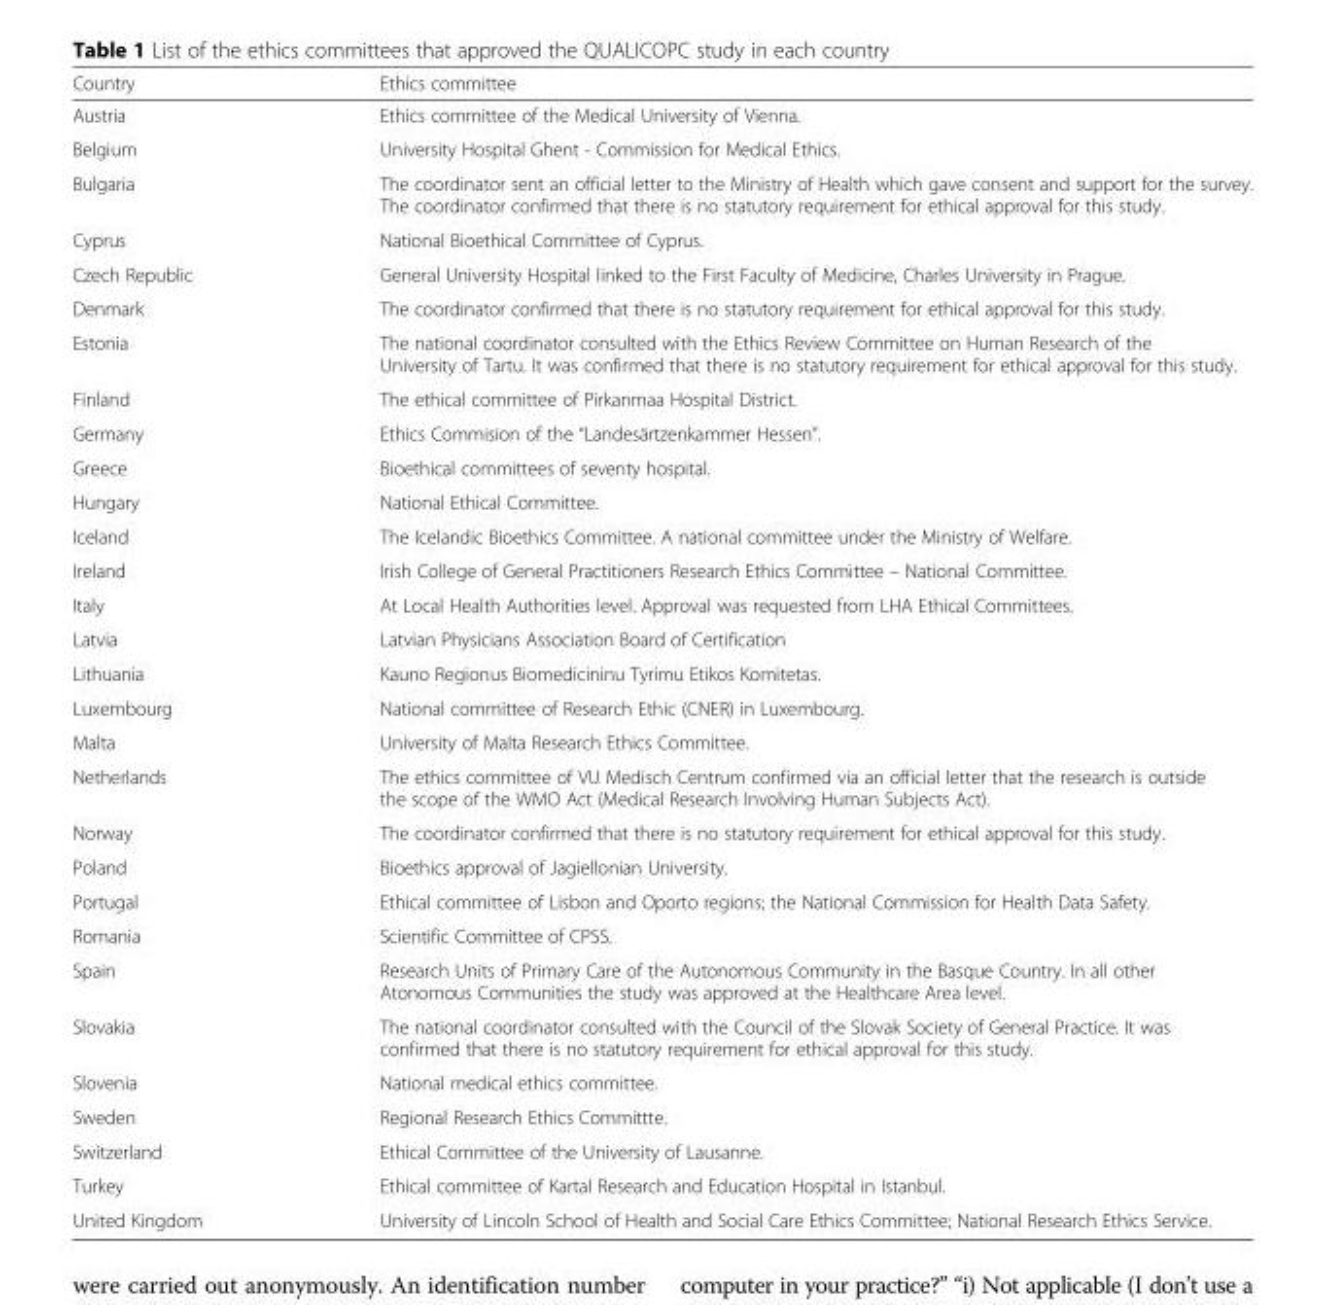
<table><thead><tr><td>Country</td><td>Ethics committee</td></tr></thead><tbody><tr><td>Austria</td><td>Ethics committee of the Medical University of Vienna.</td></tr><tr><td>Belgium</td><td>University Hospital Ghent - Commission for Medical Ethics.</td></tr><tr><td>Bulgaria</td><td>The coordinator sent an official letter to the Ministry of Health which gave consent and support for the survey. The coordinator confirmed that there is no statutory requirement for ethical approval for this study.</td></tr><tr><td>Cyprus</td><td>National Bioethical Committee of Cyprus.</td></tr><tr><td>Czech Republic</td><td>General University Hospital linked to the First Faculty of Medicine, Charles University in Prague.</td></tr><tr><td>Denmark</td><td>The coordinator confirmed that there is no statutory requirement for ethical approval for this study.</td></tr><tr><td>Estonia</td><td>The national coordinator consulted with the Ethics Review Committee on Human Research of the University of Tartu. It was confirmed that there is no statutory requirement for ethical approval for this study.</td></tr><tr><td>Finland</td><td>The ethical committee of Pirkanmaa Hospital District.</td></tr><tr><td>Germany</td><td>Ethics Commision of the “Landesärtzenkammer Hessen”.</td></tr><tr><td>Greece</td><td>Bioethical committees of seventy hospital.</td></tr><tr><td>Hungary</td><td>National Ethical Committee.</td></tr><tr><td>Iceland</td><td>The Icelandic Bioethics Committee. A national committee under the Ministry of Welfare.</td></tr><tr><td>Ireland</td><td>Irish College of General Practitioners Research Ethics Committee – National Committee.</td></tr><tr><td>Italy</td><td>At Local Health Authorities level. Approval was requested from LHA Ethical Committees.</td></tr><tr><td>Latvia</td><td>Latvian Physicians Association Board of Certification</td></tr><tr><td>Lithuania</td><td>Kauno Regionus Biomedicininu Tyrimu Etikos Komitetas.</td></tr><tr><td>Luxembourg</td><td>National committee of Research Ethic (CNER) in Luxembourg.</td></tr><tr><td>Malta</td><td>University of Malta Research Ethics Committee.</td></tr><tr><td>Netherlands</td><td>The ethics committee of VU Medisch Centrum confirmed via an official letter that the research is outside the scope of the WMO Act (Medical Research Involving Human Subjects Act).</td></tr><tr><td>Norway</td><td>The coordinator confirmed that there is no statutory requirement for ethical approval for this study.</td></tr><tr><td>Poland</td><td>Bioethics approval of Jagiellonian University.</td></tr><tr><td>Portugal</td><td>Ethical committee of Lisbon and Oporto regions; the National Commission for Health Data Safety.</td></tr><tr><td>Romania</td><td>Scientific Committee of CPSS.</td></tr><tr><td>Spain</td><td>Research Units of Primary Care of the Autonomous Community in the Basque Country. In all other Atonomous Communities the study was approved at the Healthcare Area level.</td></tr><tr><td>Slovakia</td><td>The national coordinator consulted with the Council of the Slovak Society of General Practice. It was confirmed that there is no statutory requirement for ethical approval for this study.</td></tr><tr><td>Slovenia</td><td>National medical ethics committee.</td></tr><tr><td>Sweden</td><td>Regional Research Ethics Committte.</td></tr><tr><td>Switzerland</td><td>Ethical Committee of the University of Lausanne.</td></tr><tr><td>Turkey</td><td>Ethical committee of Kartal Research and Education Hospital in Istanbul.</td></tr><tr><td>United Kingdom</td><td>University of Lincoln School of Health and Social Care Ethics Committee; National Research Ethics Service.</td></tr></tbody></table>